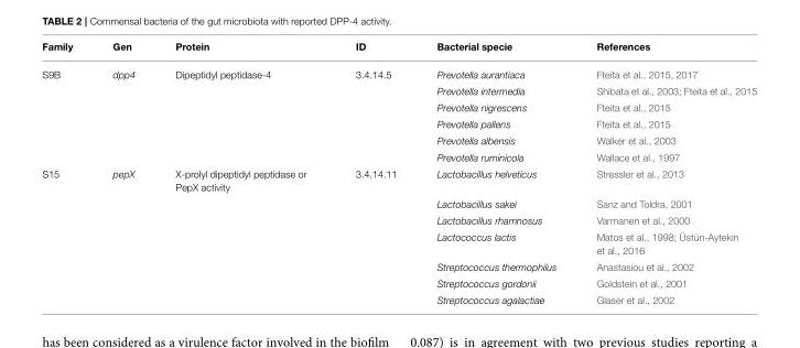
<table><thead><tr><td>Family</td><td>Gen</td><td>Protein</td><td>ID</td><td>Bacterial specie</td><td>References</td></tr></thead><tbody><tr><td rowspan="6">S9B</td><td>dpp4</td><td>Dipeptidyl peptidase-4</td><td>3.4.14.5</td><td>Prevotella aurantiaca</td><td>Fteita et al., 2015, 2017</td></tr><tr><td></td><td></td><td></td><td>Prevotella intermedia</td><td>Shibata et al., 2003; Fteita et al., 2015</td></tr><tr><td></td><td></td><td></td><td>Prevotella nigrescens</td><td>Fteita et al., 2015</td></tr><tr><td></td><td></td><td></td><td>Prevotella pallens</td><td>Fteita et al., 2015</td></tr><tr><td></td><td></td><td></td><td>Prevotella albensis</td><td>Walker et al., 2003</td></tr><tr><td></td><td></td><td></td><td>Prevotella ruminicola</td><td>Wallace et al., 1997</td></tr><tr><td rowspan="7">S15</td><td>pepX</td><td>X-prolyl dipeptidyl peptidase or PepX activity</td><td>3.4.14.11</td><td>Lactobacillus helveticus</td><td>Stressler et al., 2013</td></tr><tr><td></td><td></td><td></td><td>Lactobacillus sakei</td><td>Sanz and Toldra, 2001</td></tr><tr><td></td><td></td><td></td><td>Lactobacillus rhamnosus</td><td>Varmanen et al., 2000</td></tr><tr><td></td><td></td><td></td><td>Lactococcus lactis</td><td>Matos et al., 1998; Üstün-Aytekin et al., 2016</td></tr><tr><td></td><td></td><td></td><td>Streptococcus thermophilus</td><td>Anastasiou et al., 2002</td></tr><tr><td></td><td></td><td></td><td>Streptococcus gordonii</td><td>Goldstein et al., 2001</td></tr><tr><td></td><td></td><td></td><td>Streptococcus agalactiae</td><td>Glaser et al., 2002</td></tr></tbody></table>